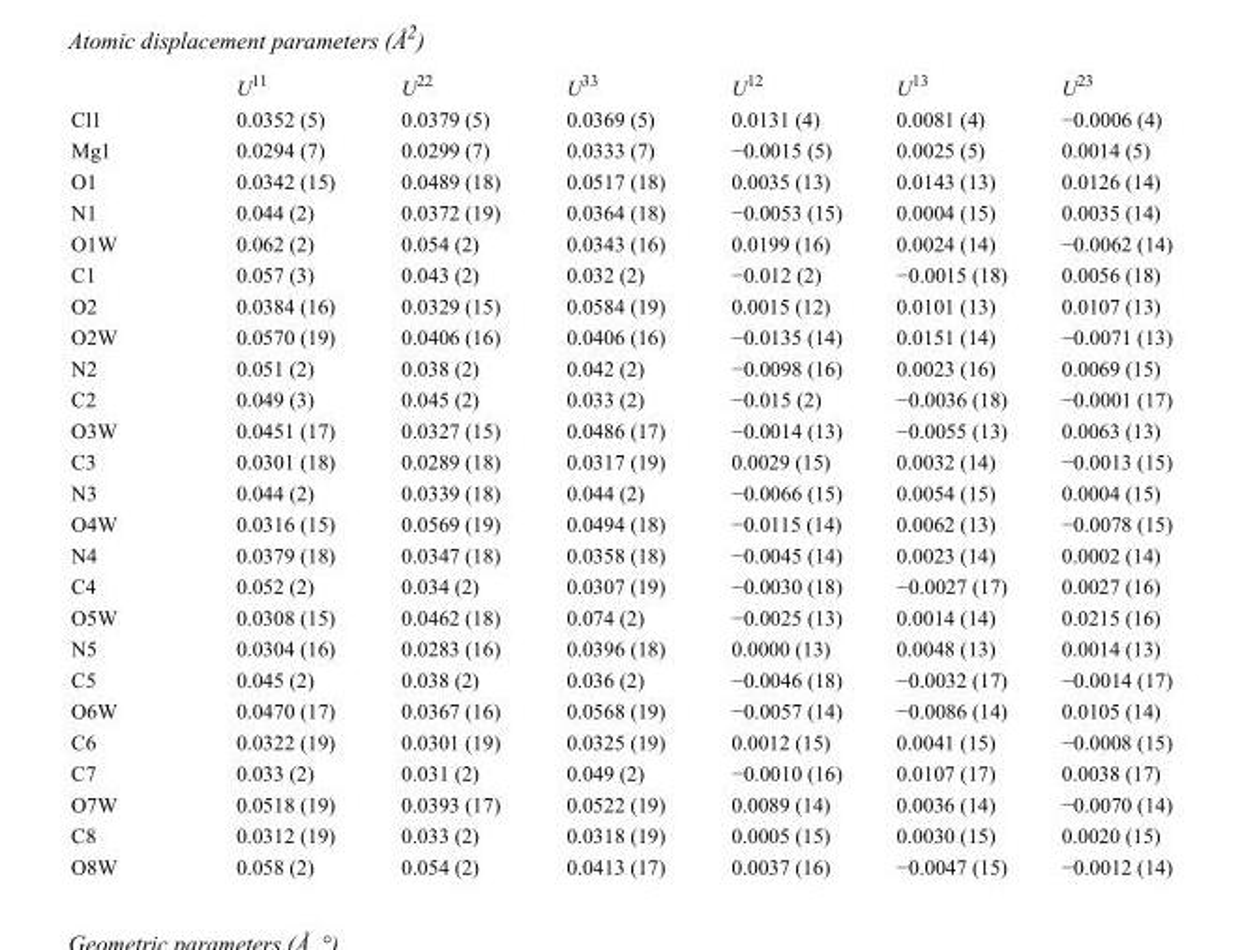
<table><thead><tr><td></td><td>U<sup>11</sup></td><td>U<sup>22</sup></td><td>U<sup>33</sup></td><td>U<sup>12</sup></td><td>U<sup>13</sup></td><td>U<sup>23</sup></td></tr></thead><tbody><tr><td>Cl1</td><td>0.0352 (5)</td><td>0.0379 (5)</td><td>0.0369 (5)</td><td>0.0131 (4)</td><td>0.0081 (4)</td><td>−0.0006 (4)</td></tr><tr><td>Mg1</td><td>0.0294 (7)</td><td>0.0299 (7)</td><td>0.0333 (7)</td><td>−0.0015 (5)</td><td>0.0025 (5)</td><td>0.0014 (5)</td></tr><tr><td>O1</td><td>0.0342 (15)</td><td>0.0489 (18)</td><td>0.0517 (18)</td><td>0.0035 (13)</td><td>0.0143 (13)</td><td>0.0126 (14)</td></tr><tr><td>N1</td><td>0.044 (2)</td><td>0.0372 (19)</td><td>0.0364 (18)</td><td>−0.0053 (15)</td><td>0.0004 (15)</td><td>0.0035 (14)</td></tr><tr><td>O1W</td><td>0.062 (2)</td><td>0.054 (2)</td><td>0.0343 (16)</td><td>0.0199 (16)</td><td>0.0024 (14)</td><td>−0.0062 (14)</td></tr><tr><td>C1</td><td>0.057 (3)</td><td>0.043 (2)</td><td>0.032 (2)</td><td>−0.012 (2)</td><td>−0.0015 (18)</td><td>0.0056 (18)</td></tr><tr><td>O2</td><td>0.0384 (16)</td><td>0.0329 (15)</td><td>0.0584 (19)</td><td>0.0015 (12)</td><td>0.0101 (13)</td><td>0.0107 (13)</td></tr><tr><td>O2W</td><td>0.0570 (19)</td><td>0.0406 (16)</td><td>0.0406 (16)</td><td>−0.0135 (14)</td><td>0.0151 (14)</td><td>−0.0071 (13)</td></tr><tr><td>N2</td><td>0.051 (2)</td><td>0.038 (2)</td><td>0.042 (2)</td><td>−0.0098 (16)</td><td>0.0023 (16)</td><td>0.0069 (15)</td></tr><tr><td>C2</td><td>0.049 (3)</td><td>0.045 (2)</td><td>0.033 (2)</td><td>−0.015 (2)</td><td>−0.0036 (18)</td><td>−0.0001 (17)</td></tr><tr><td>O3W</td><td>0.0451 (17)</td><td>0.0327 (15)</td><td>0.0486 (17)</td><td>−0.0014 (13)</td><td>−0.0055 (13)</td><td>0.0063 (13)</td></tr><tr><td>C3</td><td>0.0301 (18)</td><td>0.0289 (18)</td><td>0.0317 (19)</td><td>0.0029 (15)</td><td>0.0032 (14)</td><td>−0.0013 (15)</td></tr><tr><td>N3</td><td>0.044 (2)</td><td>0.0339 (18)</td><td>0.044 (2)</td><td>−0.0066 (15)</td><td>0.0054 (15)</td><td>0.0004 (15)</td></tr><tr><td>O4W</td><td>0.0316 (15)</td><td>0.0569 (19)</td><td>0.0494 (18)</td><td>−0.0115 (14)</td><td>0.0062 (13)</td><td>−0.0078 (15)</td></tr><tr><td>N4</td><td>0.0379 (18)</td><td>0.0347 (18)</td><td>0.0358 (18)</td><td>−0.0045 (14)</td><td>0.0023 (14)</td><td>0.0002 (14)</td></tr><tr><td>C4</td><td>0.052 (2)</td><td>0.034 (2)</td><td>0.0307 (19)</td><td>−0.0030 (18)</td><td>−0.0027 (17)</td><td>0.0027 (16)</td></tr><tr><td>O5W</td><td>0.0308 (15)</td><td>0.0462 (18)</td><td>0.074 (2)</td><td>−0.0025 (13)</td><td>0.0014 (14)</td><td>0.0215 (16)</td></tr><tr><td>N5</td><td>0.0304 (16)</td><td>0.0283 (16)</td><td>0.0396 (18)</td><td>0.0000 (13)</td><td>0.0048 (13)</td><td>0.0014 (13)</td></tr><tr><td>C5</td><td>0.045 (2)</td><td>0.038 (2)</td><td>0.036 (2)</td><td>−0.0046 (18)</td><td>−0.0032 (17)</td><td>−0.0014 (17)</td></tr><tr><td>O6W</td><td>0.0470 (17)</td><td>0.0367 (16)</td><td>0.0568 (19)</td><td>−0.0057 (14)</td><td>−0.0086 (14)</td><td>0.0105 (14)</td></tr><tr><td>C6</td><td>0.0322 (19)</td><td>0.0301 (19)</td><td>0.0325 (19)</td><td>0.0012 (15)</td><td>0.0041 (15)</td><td>−0.0008 (15)</td></tr><tr><td>C7</td><td>0.033 (2)</td><td>0.031 (2)</td><td>0.049 (2)</td><td>−0.0010 (16)</td><td>0.0107 (17)</td><td>0.0038 (17)</td></tr><tr><td>O7W</td><td>0.0518 (19)</td><td>0.0393 (17)</td><td>0.0522 (19)</td><td>0.0089 (14)</td><td>0.0036 (14)</td><td>−0.0070 (14)</td></tr><tr><td>C8</td><td>0.0312 (19)</td><td>0.033 (2)</td><td>0.0318 (19)</td><td>0.0005 (15)</td><td>0.0030 (15)</td><td>0.0020 (15)</td></tr><tr><td>O8W</td><td>0.058 (2)</td><td>0.054 (2)</td><td>0.0413 (17)</td><td>0.0037 (16)</td><td>−0.0047 (15)</td><td>−0.0012 (14)</td></tr></tbody></table>